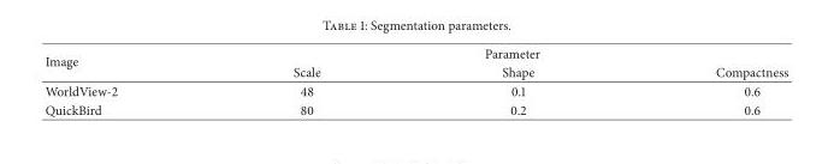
<table><thead><tr><td rowspan="2">Image</td><td colspan="3">Parameter</td></tr><tr><td>Scale</td><td>Shape</td><td>Compactness</td></tr></thead><tbody><tr><td>WorldView-2</td><td>48</td><td>0.1</td><td>0.6</td></tr><tr><td>QuickBird</td><td>80</td><td>0.2</td><td>0.6</td></tr></tbody></table>